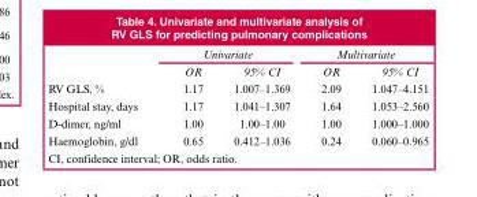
<table><thead><tr><td rowspan="2"></td><td colspan="2">Univariate</td><td colspan="2">Multivariate</td></tr><tr><td>OR</td><td>95% CI</td><td>OR</td><td>95% CI</td></tr></thead><tbody><tr><td>RV GLS, %</td><td>1.17</td><td>1.007–1.369</td><td>2.09</td><td>1.047–4.151</td></tr><tr><td>Hospital stay, days</td><td>1.17</td><td>1.041–1.307</td><td>1.64</td><td>1.053–2.560</td></tr><tr><td>D-dimer, ng/ml</td><td>1.00</td><td>1.00–1.00</td><td>1.00</td><td>1.000–1.000</td></tr><tr><td>Haemoglobin, g/dl</td><td>0.65</td><td>0.412–1.036</td><td>0.24</td><td>0.060–0.965</td></tr></tbody></table>